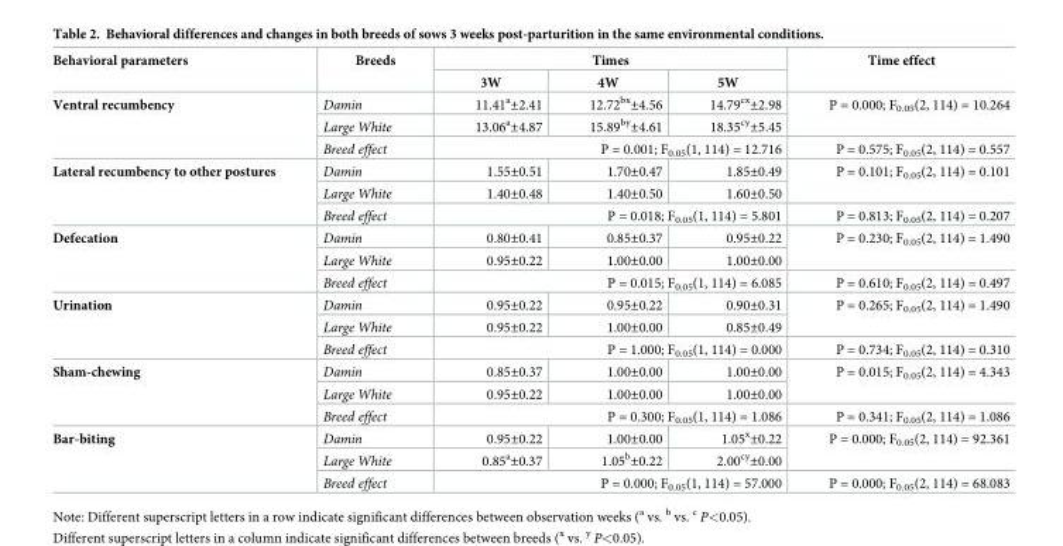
<table><thead><tr><td rowspan="2">Behavioral parameters</td><td rowspan="2">Breeds</td><td colspan="3">Times</td><td rowspan="2">Time effect</td></tr><tr><td>3W</td><td>4W</td><td>5W</td></tr></thead><tbody><tr><td rowspan="3">Ventral recumbency</td><td>Damin</td><td>11.41<sup>a</sup>±2.41</td><td>12.72<sup>bx</sup>±4.56</td><td>14.79<sup>cx</sup>±2.98</td><td rowspan="2">P = 0.000; F<sub>0.05</sub>(2, 114) = 10.264</td></tr><tr><td>Large White</td><td>13.06<sup>a</sup>±4.87</td><td>15.89<sup>by</sup>±4.61</td><td>18.35<sup>cy</sup>±5.45</td></tr><tr><td>Breed effect</td><td colspan="3">P = 0.001; F<sub>0.05</sub>(1, 114) = 12.716</td><td>P = 0.575; F<sub>0.05</sub>(2, 114) = 0.557</td></tr><tr><td rowspan="3">Lateral recumbency to other postures</td><td>Damin</td><td>1.55±0.51</td><td>1.70±0.47</td><td>1.85±0.49</td><td rowspan="2">P = 0.101; F<sub>0.05</sub>(2, 114) = 0.101</td></tr><tr><td>Large White</td><td>1.40±0.48</td><td>1.40±0.50</td><td>1.60±0.50</td></tr><tr><td>Breed effect</td><td colspan="3">P = 0.018; F<sub>0.05</sub>(1, 114) = 5.801</td><td>P = 0.813; F<sub>0.05</sub>(2, 114) = 0.207</td></tr><tr><td rowspan="3">Defecation</td><td>Damin</td><td>0.80±0.41</td><td>0.85±0.37</td><td>0.95±0.22</td><td rowspan="2">P = 0.230; F<sub>0.05</sub>(2, 114) = 1.490</td></tr><tr><td>Large White</td><td>0.95±0.22</td><td>1.00±0.00</td><td>1.00±0.00</td></tr><tr><td>Breed effect</td><td colspan="3">P = 0.015; F<sub>0.05</sub>(1, 114) = 6.085</td><td>P = 0.610; F<sub>0.05</sub>(2, 114) = 0.497</td></tr><tr><td rowspan="3">Urination</td><td>Damin</td><td>0.95±0.22</td><td>0.95±0.22</td><td>0.90±0.31</td><td rowspan="2">P = 0.265; F<sub>0.05</sub>(2, 114) = 1.490</td></tr><tr><td>Large White</td><td>0.95±0.22</td><td>1.00±0.00</td><td>0.85±0.49</td></tr><tr><td>Breed effect</td><td colspan="3">P = 1.000; F<sub>0.05</sub>(1, 114) = 0.000</td><td>P = 0.734; F<sub>0.05</sub>(2, 114) = 0.310</td></tr><tr><td rowspan="3">Sham-chewing</td><td>Damin</td><td>0.85±0.37</td><td>1.00±0.00</td><td>1.00±0.00</td><td rowspan="2">P = 0.015; F<sub>0.05</sub>(2, 114) = 4.343</td></tr><tr><td>Large White</td><td>0.95±0.22</td><td>1.00±0.00</td><td>1.00±0.00</td></tr><tr><td>Breed effect</td><td colspan="3">P = 0.300; F<sub>0.05</sub>(1, 114) = 1.086</td><td>P = 0.341; F<sub>0.05</sub>(2, 114) = 1.086</td></tr><tr><td rowspan="3">Bar-biting</td><td>Damin</td><td>0.95±0.22</td><td>1.00±0.00</td><td>1.05<sup>x</sup>±0.22</td><td rowspan="2">P = 0.000; F<sub>0.05</sub>(2, 114) = 92.361</td></tr><tr><td>Large White</td><td>0.85<sup>a</sup>±0.37</td><td>1.05<sup>b</sup>±0.22</td><td>2.00<sup>cy</sup>±0.00</td></tr><tr><td>Breed effect</td><td colspan="3">P = 0.000; F<sub>0.05</sub>(1, 114) = 57.000</td><td>P = 0.000; F<sub>0.05</sub>(2, 114) = 68.083</td></tr></tbody></table>